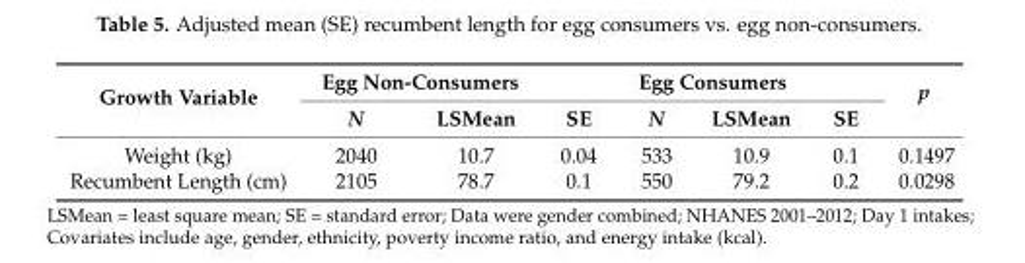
<table><thead><tr><td rowspan="2">Growth Variable</td><td colspan="2">Egg Non-Consumers</td><td rowspan="2">SE</td><td colspan="2">Egg Consumers</td><td rowspan="2">SE</td><td rowspan="2">p</td></tr><tr><td>N</td><td>LSMean</td><td>N</td><td>LSMean</td></tr></thead><tbody><tr><td>Weight (kg)</td><td>2040</td><td>10.7</td><td>0.04</td><td>533</td><td>10.9</td><td>0.1</td><td>0.1497</td></tr><tr><td>Recumbent Length (cm)</td><td>2105</td><td>78.7</td><td>0.1</td><td>550</td><td>79.2</td><td>0.2</td><td>0.0298</td></tr></tbody></table>